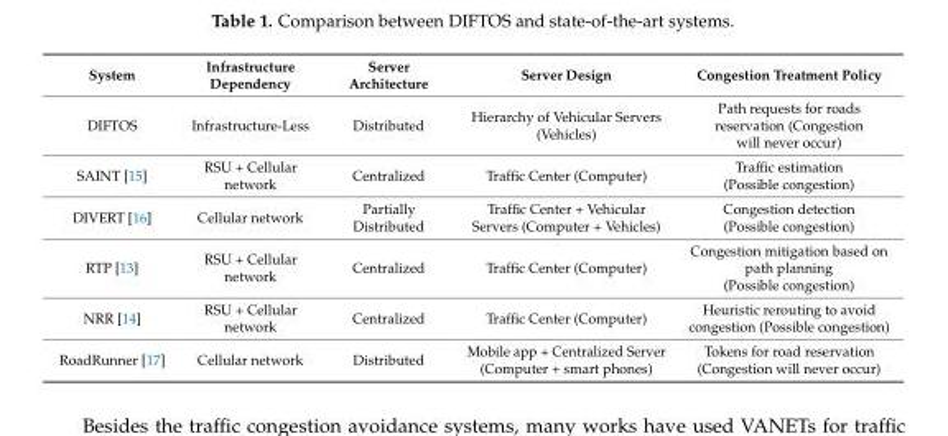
<table><thead><tr><td>System</td><td>Infrastructure Dependency</td><td>Server Architecture</td><td>Server Design</td><td>Congestion Treatment Policy</td></tr></thead><tbody><tr><td>DIFTOS</td><td>Infrastructure-Less</td><td>Distributed</td><td>Hierarchy of Vehicular Servers (Vehicles)</td><td>Path requests for roads reservation (Congestion will never occur)</td></tr><tr><td>SAINT [15]</td><td>RSU + Cellular network</td><td>Centralized</td><td>Traffic Center (Computer)</td><td>Traffic estimation (Possible congestion)</td></tr><tr><td>DIVERT [16]</td><td>Cellular network</td><td>Partially Distributed</td><td>Traffic Center + Vehicular Servers (Computer + Vehicles)</td><td>Congestion detection (Possible congestion)</td></tr><tr><td>RTP [13]</td><td>RSU + Cellular network</td><td>Centralized</td><td>Traffic Center (Computer)</td><td>Congestion mitigation based on path planning (Possible congestion)</td></tr><tr><td>NRR [14]</td><td>RSU + Cellular network</td><td>Centralized</td><td>Traffic Center (Computer)</td><td>Heuristic rerouting to avoid congestion (Possible congestion)</td></tr><tr><td>RoadRunner [17]</td><td>Cellular network</td><td>Distributed</td><td>Mobile app + Centralized Server (Computer + smart phones)</td><td>Tokens for road reservation (Congestion will never occur)</td></tr></tbody></table>